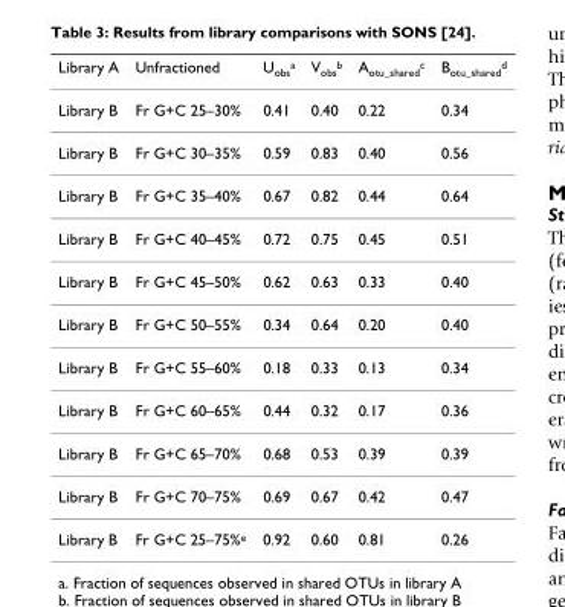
<table><thead><tr><td>Library A</td><td>Unfractioned</td><td>U<sub>obs</sub><sup>a</sup></td><td>V<sub>obs</sub><sup>b</sup></td><td>A<sub>otu_shared</sub><sup>c</sup></td><td>B<sub>otu_shared</sub><sup>d</sup></td></tr></thead><tbody><tr><td>Library B</td><td>Fr G+C 25–30%</td><td>0.41</td><td>0.40</td><td>0.22</td><td>0.34</td></tr><tr><td>Library B</td><td>Fr G+C 30–35%</td><td>0.59</td><td>0.83</td><td>0.40</td><td>0.56</td></tr><tr><td>Library B</td><td>Fr G+C 35–40%</td><td>0.67</td><td>0.82</td><td>0.44</td><td>0.64</td></tr><tr><td>Library B</td><td>Fr G+C 40–45%</td><td>0.72</td><td>0.75</td><td>0.45</td><td>0.51</td></tr><tr><td>Library B</td><td>Fr G+C 45–50%</td><td>0.62</td><td>0.63</td><td>0.33</td><td>0.40</td></tr><tr><td>Library B</td><td>Fr G+C 50–55%</td><td>0.34</td><td>0.64</td><td>0.20</td><td>0.40</td></tr><tr><td>Library B</td><td>Fr G+C 55–60%</td><td>0.18</td><td>0.33</td><td>0.13</td><td>0.34</td></tr><tr><td>Library B</td><td>Fr G+C 60–65%</td><td>0.44</td><td>0.32</td><td>0.17</td><td>0.36</td></tr><tr><td>Library B</td><td>Fr G+C 65–70%</td><td>0.68</td><td>0.53</td><td>0.39</td><td>0.39</td></tr><tr><td>Library B</td><td>Fr G+C 70–75%</td><td>0.69</td><td>0.67</td><td>0.42</td><td>0.47</td></tr><tr><td>Library B</td><td>Fr G+C 25–75%<sup>e</sup></td><td>0.92</td><td>0.60</td><td>0.81</td><td>0.26</td></tr></tbody></table>